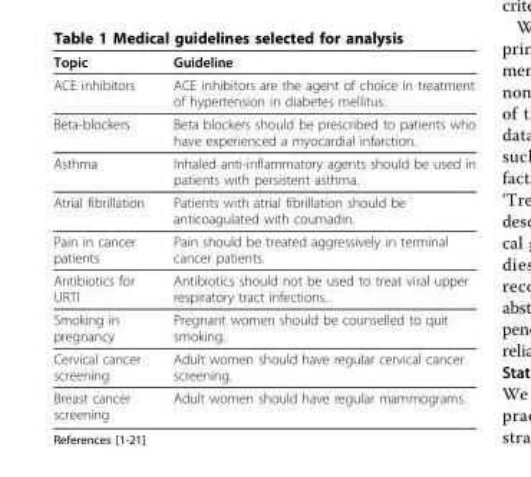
<table><thead><tr><td>Topic</td><td>Guideline</td></tr></thead><tbody><tr><td>ACE inhibitors</td><td>ACE inhibitors are the agent of choice in treatment of hypertension in diabetes mellitus.</td></tr><tr><td>Beta-blockers</td><td>Beta blockers should be prescribed to patients who have experienced a myocardial infarction.</td></tr><tr><td>Asthma</td><td>Inhaled anti-inflammatory agents should be used in patients with persistent asthma.</td></tr><tr><td>Atrial fibrillation</td><td>Patients with atrial fibrillation should be anticoagulated with coumadin.</td></tr><tr><td>Pain in cancer patients</td><td>Pain should be treated aggressively in terminal cancer patients.</td></tr><tr><td>Antibiotics for URTI</td><td>Antibiotics should not be used to treat viral upper respiratory tract infections.</td></tr><tr><td>Smoking in pregnancy</td><td>Pregnant women should be counselled to quit smoking.</td></tr><tr><td>Cervical cancer screening</td><td>Adult women should have regular cervical cancer screening.</td></tr><tr><td>Breast cancer screening</td><td>Adult women should have regular mammograms.</td></tr></tbody></table>